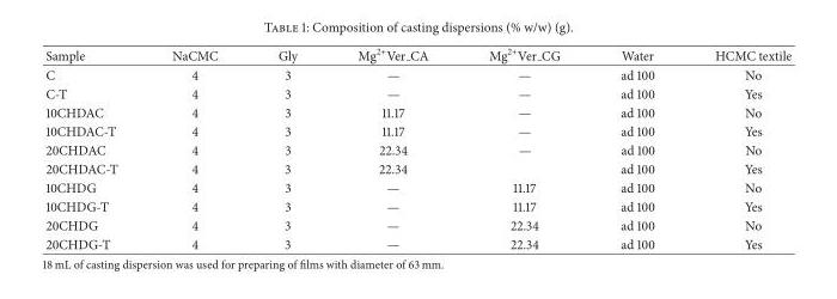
<table><thead><tr><td>Sample</td><td>NaCMC</td><td>Gly</td><td>Mg2+Ver CA</td><td>Mg2+Ver CG</td><td>Water</td><td>HCMC textile</td></tr></thead><tbody><tr><td>C</td><td>4</td><td>3</td><td>—</td><td>—</td><td>ad 100</td><td>No</td></tr><tr><td>C-T</td><td>4</td><td>3</td><td>—</td><td>—</td><td>ad 100</td><td>Yes</td></tr><tr><td>10CHDAC</td><td>4</td><td>3</td><td>11.17</td><td>—</td><td>ad 100</td><td>No</td></tr><tr><td>10CHDAC-T</td><td>4</td><td>3</td><td>11.17</td><td>—</td><td>ad 100</td><td>Yes</td></tr><tr><td>20CHDAC</td><td>4</td><td>3</td><td>22.34</td><td>—</td><td>ad 100</td><td>No</td></tr><tr><td>20CHDAC-T</td><td>4</td><td>3</td><td>22.34</td><td></td><td>ad 100</td><td>Yes</td></tr><tr><td>10CHDG</td><td>4</td><td>3</td><td>—</td><td>11.17</td><td>ad 100</td><td>No</td></tr><tr><td>10CHDG-T</td><td>4</td><td>3</td><td>—</td><td>11.17</td><td>ad 100</td><td>Yes</td></tr><tr><td>20CHDG</td><td>4</td><td>3</td><td>—</td><td>22.34</td><td>ad 100</td><td>No</td></tr><tr><td>20CHDG-T</td><td>4</td><td>3</td><td>—</td><td>22.34</td><td>ad 100</td><td>Yes</td></tr></tbody></table>